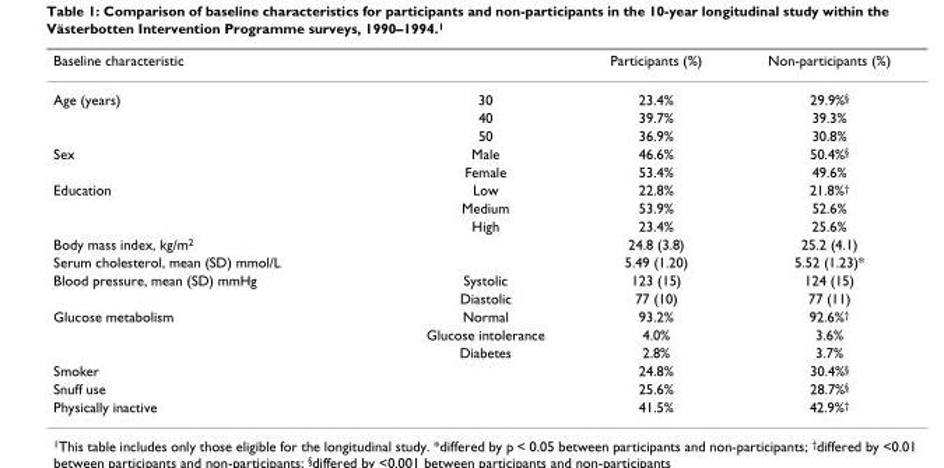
<table><thead><tr><td colspan="2">Baseline characteristic</td><td rowspan="2">Participants (%) 23.4%</td><td rowspan="2">Non-participants (%) 29.9%<sup>§</sup></td></tr><tr><td>Age (years)</td><td>30</td></tr></thead><tbody><tr><td></td><td>40</td><td>39.7%</td><td>39.3%</td></tr><tr><td></td><td>50</td><td>36.9%</td><td>30.8%</td></tr><tr><td rowspan="2">Sex</td><td>Male</td><td>46.6%</td><td>50.4%<sup>§</sup></td></tr><tr><td>Female</td><td>53.4%</td><td>49.6%</td></tr><tr><td rowspan="3">Education</td><td>Low</td><td>22.8%</td><td>21.8%<sup>†</sup></td></tr><tr><td>Medium</td><td>53.9%</td><td>52.6%</td></tr><tr><td>High</td><td>23.4%</td><td>25.6%</td></tr><tr><td>Body mass index, kg/m<sup>2</sup></td><td></td><td>24.8 (3.8)</td><td>25.2 (4.1)</td></tr><tr><td>Serum cholesterol, mean (SD) mmol/L</td><td></td><td>5.49 (1.20)</td><td>5.52 (1.23)*</td></tr><tr><td rowspan="2">Blood pressure, mean (SD) mmHg</td><td>Systolic</td><td>123 (15)</td><td>124 (15)</td></tr><tr><td>Diastolic</td><td>77 (10)</td><td>77 (11)</td></tr><tr><td rowspan="3">Glucose metabolism</td><td>Normal</td><td>93.2%</td><td>92.6%<sup>†</sup></td></tr><tr><td>Glucose intolerance</td><td>4.0%</td><td>3.6%</td></tr><tr><td>Diabetes</td><td>2.8%</td><td>3.7%</td></tr><tr><td>Smoker</td><td></td><td>24.8%</td><td>30.4%<sup>§</sup></td></tr><tr><td>Snuff use</td><td></td><td>25.6%</td><td>28.7%<sup>§</sup></td></tr><tr><td>Physically inactive</td><td></td><td>41.5%</td><td>42.9%<sup>†</sup></td></tr></tbody></table>